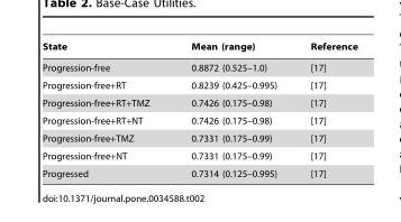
<table><thead><tr><td>State</td><td>Mean (range)</td><td>Reference</td></tr></thead><tbody><tr><td>Progression-free</td><td>0.8872 (0.525–1.0)</td><td>[17]</td></tr><tr><td>Progression-free+RT</td><td>0.8239 (0.425–0.995)</td><td>[17]</td></tr><tr><td>Progression-free+RT+TMZ</td><td>0.7426 (0.175–0.98)</td><td>[17]</td></tr><tr><td>Progression-free+RT+NT</td><td>0.7426 (0.175–0.98)</td><td>[17]</td></tr><tr><td>Progression-free+TMZ</td><td>0.7331 (0.175–0.99)</td><td>[17]</td></tr><tr><td>Progression-free+NT</td><td>0.7331 (0.175–0.99)</td><td>[17]</td></tr><tr><td>Progressed</td><td>0.7314 (0.125–0.995)</td><td>[17]</td></tr></tbody></table>